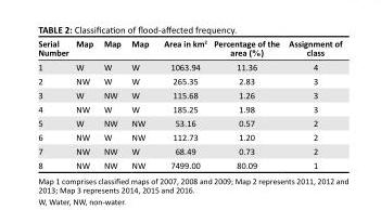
<table><thead><tr><td>Serial Number</td><td>Map</td><td>Map</td><td>Map</td><td>Area in km<sup>2</sup></td><td>Percentage of the area (%)</td><td>Assignment of class</td></tr></thead><tbody><tr><td>1</td><td>W</td><td>W</td><td>W</td><td>1063.94</td><td>11.36</td><td>4</td></tr><tr><td>2</td><td>NW</td><td>W</td><td>W</td><td>265.35</td><td>2.83</td><td>3</td></tr><tr><td>3</td><td>W</td><td>NW</td><td>W</td><td>115.68</td><td>1.26</td><td>3</td></tr><tr><td>4</td><td>NW</td><td>W</td><td>W</td><td>185.25</td><td>1.98</td><td>3</td></tr><tr><td>5</td><td>W</td><td>NW</td><td>NW</td><td>53.16</td><td>0.57</td><td>2</td></tr><tr><td>6</td><td>NW</td><td>W</td><td>NW</td><td>112.73</td><td>1.20</td><td>2</td></tr><tr><td>7</td><td>NW</td><td>NW</td><td>W</td><td>68.49</td><td>0.73</td><td>2</td></tr><tr><td>8</td><td>NW</td><td>NW</td><td>NW</td><td>7499.00</td><td>80.09</td><td>1</td></tr></tbody></table>